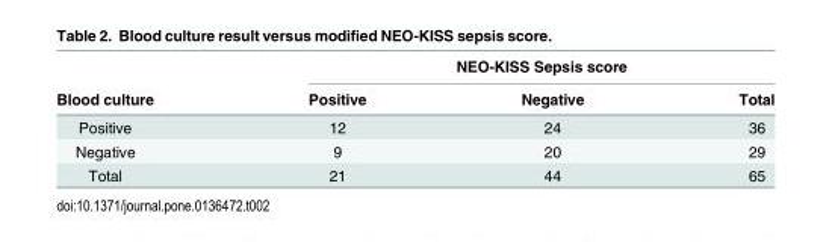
<table><thead><tr><td rowspan="2">Blood culture</td><td colspan="3">NEO-KISS Sepsis score</td></tr><tr><td>Positive</td><td>Negative</td><td>Total</td></tr></thead><tbody><tr><td>Positive</td><td>12</td><td>24</td><td>36</td></tr><tr><td>Negative</td><td>9</td><td>20</td><td>29</td></tr><tr><td>Total</td><td>21</td><td>44</td><td>65</td></tr></tbody></table>